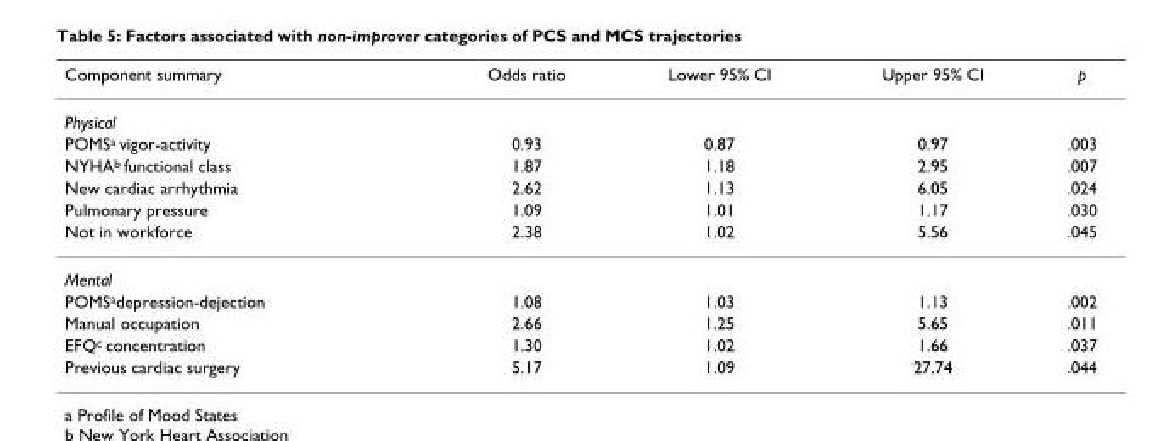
<table><thead><tr><td>Component summary</td><td>Odds ratio</td><td>Lower 95% CI</td><td>Upper 95% CI</td><td>p</td></tr></thead><tbody><tr><td colspan="5">Physical</td></tr><tr><td>POMS<sup>a</sup> vigor-activity</td><td>0.93</td><td>0.87</td><td>0.97</td><td>.003</td></tr><tr><td>NYHA<sup>b</sup> functional class</td><td>1.87</td><td>1.18</td><td>2.95</td><td>.007</td></tr><tr><td>New cardiac arrhythmia</td><td>2.62</td><td>1.13</td><td>6.05</td><td>.024</td></tr><tr><td>Pulmonary pressure</td><td>1.09</td><td>1.01</td><td>1.17</td><td>.030</td></tr><tr><td>Not in workforce</td><td>2.38</td><td>1.02</td><td>5.56</td><td>.045</td></tr><tr><td colspan="5">Mental</td></tr><tr><td>POMS<sup>a</sup>depression-dejection</td><td>1.08</td><td>1.03</td><td>1.13</td><td>.002</td></tr><tr><td>Manual occupation</td><td>2.66</td><td>1.25</td><td>5.65</td><td>.011</td></tr><tr><td>EFQ<sup>c</sup> concentration</td><td>1.30</td><td>1.02</td><td>1.66</td><td>.037</td></tr><tr><td>Previous cardiac surgery</td><td>5.17</td><td>1.09</td><td>27.74</td><td>.044</td></tr></tbody></table>